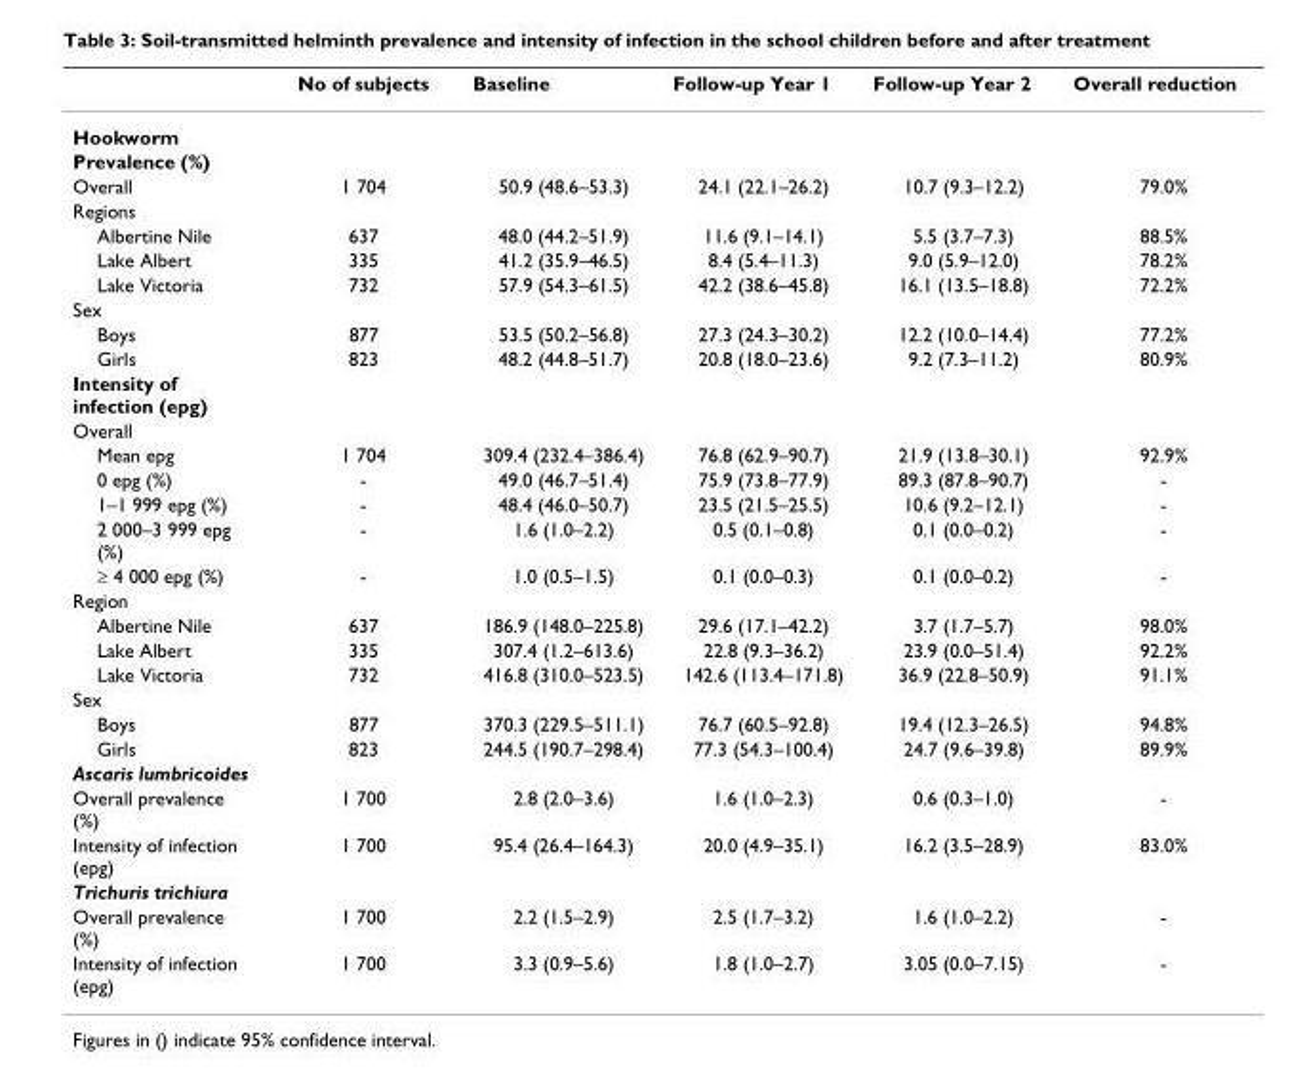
<table><thead><tr><td></td><td>No of subjects</td><td>Baseline</td><td>Follow-up Year 1</td><td>Follow-up Year 2</td><td>Overall reduction</td></tr></thead><tbody><tr><td colspan="6">Hookworm</td></tr><tr><td colspan="6">Prevalence (%)</td></tr><tr><td>Overall</td><td>1 704</td><td>50.9 (48.6–53.3)</td><td>24.1 (22.1–26.2)</td><td>10.7 (9.3–12.2)</td><td>79.0%</td></tr><tr><td colspan="6">Regions</td></tr><tr><td>Albertine Nile</td><td>637</td><td>48.0 (44.2–51.9)</td><td>11.6 (9.1–14.1)</td><td>5.5 (3.7–7.3)</td><td>88.5%</td></tr><tr><td>Lake Albert</td><td>335</td><td>41.2 (35.9–46.5)</td><td>8.4 (5.4–11.3)</td><td>9.0 (5.9–12.0)</td><td>78.2%</td></tr><tr><td>Lake Victoria</td><td>732</td><td>57.9 (54.3–61.5)</td><td>42.2 (38.6–45.8)</td><td>16.1 (13.5–18.8)</td><td>72.2%</td></tr><tr><td colspan="6">Sex</td></tr><tr><td>Boys</td><td>877</td><td>53.5 (50.2–56.8)</td><td>27.3 (24.3–30.2)</td><td>12.2 (10.0–14.4)</td><td>77.2%</td></tr><tr><td>Girls</td><td>823</td><td>48.2 (44.8–51.7)</td><td>20.8 (18.0–23.6)</td><td>9.2 (7.3–11.2)</td><td>80.9%</td></tr><tr><td colspan="6">Intensity of infection (epg)</td></tr><tr><td colspan="6">Overall</td></tr><tr><td>Mean epg</td><td>1 704</td><td>309.4 (232.4–386.4)</td><td>76.8 (62.9–90.7)</td><td>21.9 (13.8–30.1)</td><td>92.9%</td></tr><tr><td>0 epg (%)</td><td>-</td><td>49.0 (46.7–51.4)</td><td>75.9 (73.8–77.9)</td><td>89.3 (87.8–90.7)</td><td>-</td></tr><tr><td>1–1 999 epg (%)</td><td>-</td><td>48.4 (46.0–50.7)</td><td>23.5 (21.5–25.5)</td><td>10.6 (9.2–12.1)</td><td>-</td></tr><tr><td>2 000–3 999 epg (%)</td><td>-</td><td>1.6 (1.0–2.2)</td><td>0.5 (0.1–0.8)</td><td>0.1 (0.0–0.2)</td><td>-</td></tr><tr><td>≥ 4 000 epg (%)</td><td>-</td><td>1.0 (0.5–1.5)</td><td>0.1 (0.0–0.3)</td><td>0.1 (0.0–0.2)</td><td>-</td></tr><tr><td colspan="6">Region</td></tr><tr><td>Albertine Nile</td><td>637</td><td>186.9 (148.0–225.8)</td><td>29.6 (17.1–42.2)</td><td>3.7 (1.7–5.7)</td><td>98.0%</td></tr><tr><td>Lake Albert</td><td>335</td><td>307.4 (1.2–613.6)</td><td>22.8 (9.3–36.2)</td><td>23.9 (0.0–51.4)</td><td>92.2%</td></tr><tr><td>Lake Victoria</td><td>732</td><td>416.8 (310.0–523.5)</td><td>142.6 (113.4–171.8)</td><td>36.9 (22.8–50.9)</td><td>91.1%</td></tr><tr><td colspan="6">Sex</td></tr><tr><td>Boys</td><td>877</td><td>370.3 (229.5–511.1)</td><td>76.7 (60.5–92.8)</td><td>19.4 (12.3–26.5)</td><td>94.8%</td></tr><tr><td>Girls</td><td>823</td><td>244.5 (190.7–298.4)</td><td>77.3 (54.3–100.4)</td><td>24.7 (9.6–39.8)</td><td>89.9%</td></tr><tr><td colspan="6">Ascaris lumbricoides</td></tr><tr><td>Overall prevalence (%)</td><td>1 700</td><td>2.8 (2.0–3.6)</td><td>1.6 (1.0–2.3)</td><td>0.6 (0.3–1.0)</td><td>-</td></tr><tr><td>Intensity of infection (epg)</td><td>1 700</td><td>95.4 (26.4–164.3)</td><td>20.0 (4.9–35.1)</td><td>16.2 (3.5–28.9)</td><td>83.0%</td></tr><tr><td colspan="6">Trichuris trichiura</td></tr><tr><td>Overall prevalence (%)</td><td>1 700</td><td>2.2 (1.5–2.9)</td><td>2.5 (1.7–3.2)</td><td>1.6 (1.0–2.2)</td><td>-</td></tr><tr><td>Intensity of infection (epg)</td><td>1 700</td><td>3.3 (0.9–5.6)</td><td>1.8 (1.0–2.7)</td><td>3.05 (0.0–7.15)</td><td>-</td></tr></tbody></table>